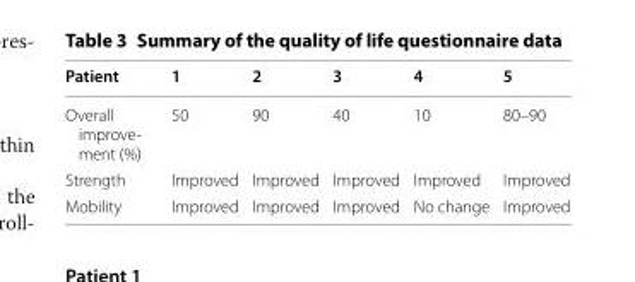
<table><thead><tr><td>Patient</td><td>1</td><td>2</td><td>3</td><td>4</td><td>5</td></tr></thead><tbody><tr><td>Overall improve- ment (%)</td><td>50</td><td>90</td><td>40</td><td>10</td><td>80–90</td></tr><tr><td>Strength</td><td>Improved</td><td>Improved</td><td>Improved</td><td>Improved</td><td>Improved</td></tr><tr><td>Mobility</td><td>Improved</td><td>Improved</td><td>Improved</td><td>No change</td><td>Improved</td></tr></tbody></table>